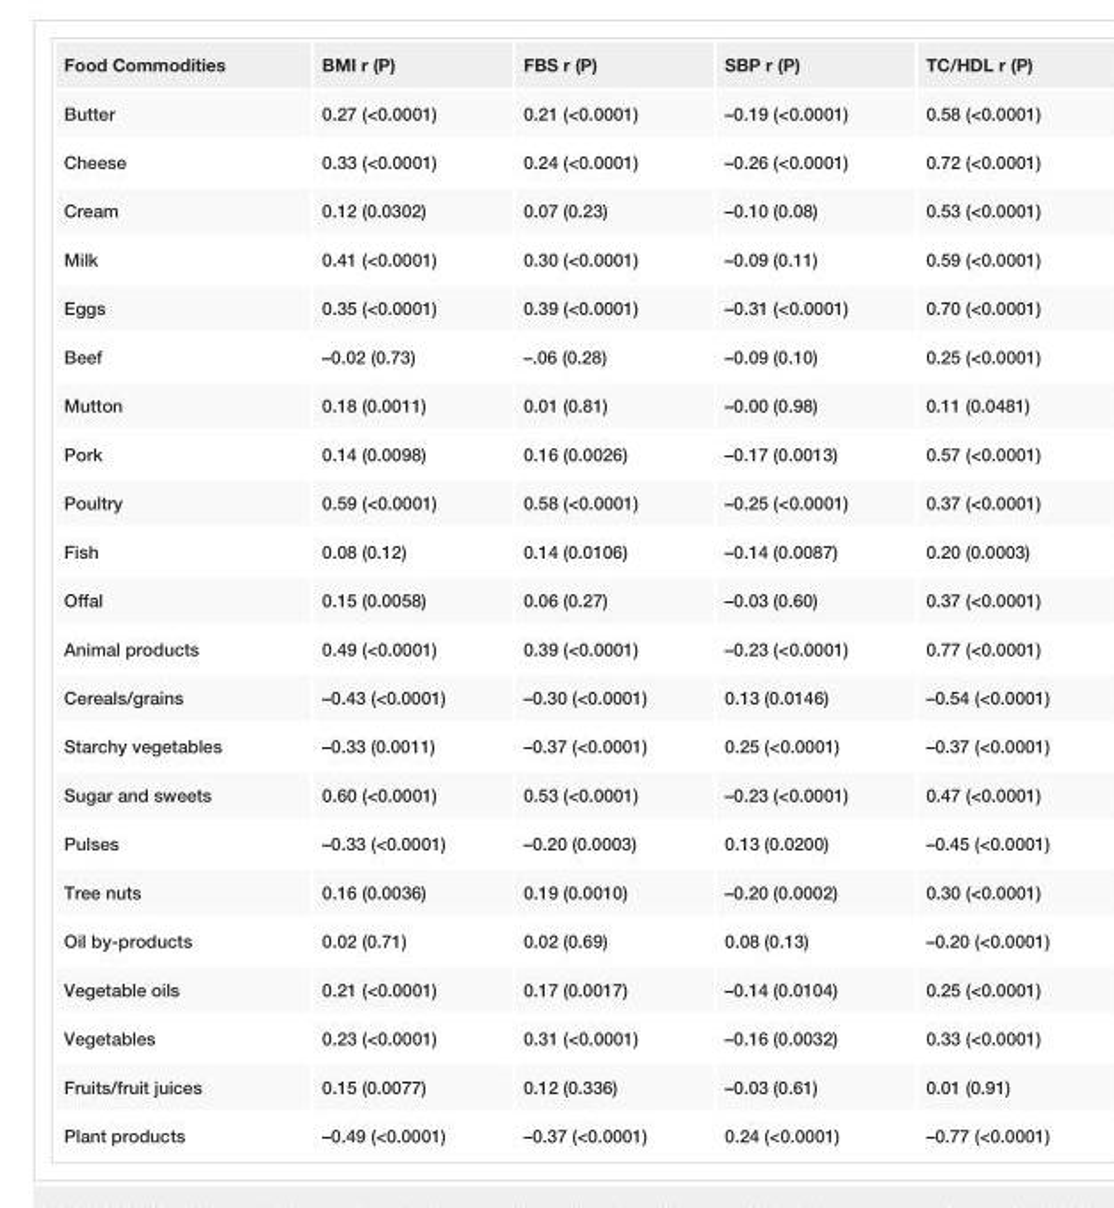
<table><tbody><tr><td>Food Commodities</td><td>BMI r (P)</td><td>FBS r (P)</td><td>SBP r (P)</td><td>TC/HDL r (P)</td></tr><tr><td>Butter</td><td>0.27 (&lt;0.0001)</td><td>0.21 (&lt;0.0001)</td><td>–0.19 (&lt;0.0001)</td><td>0.58 (&lt;0.0001)</td></tr><tr><td>Cheese</td><td>0.33 (&lt;0.0001)</td><td>0.24 (&lt;0.0001)</td><td>–0.26 (&lt;0.0001)</td><td>0.72 (&lt;0.0001)</td></tr><tr><td>Cream</td><td>0.12 (0.0302)</td><td>0.07 (0.23)</td><td>–0.10 (0.08)</td><td>0.53 (&lt;0.0001)</td></tr><tr><td>Milk</td><td>0.41 (&lt;0.0001)</td><td>0.30 (&lt;0.0001)</td><td>–0.09 (0.11)</td><td>0.59 (&lt;0.0001)</td></tr><tr><td>Eggs</td><td>0.35 (&lt;0.0001)</td><td>0.39 (&lt;0.0001)</td><td>–0.31 (&lt;0.0001)</td><td>0.70 (&lt;0.0001)</td></tr><tr><td>Beef</td><td>–0.02 (0.73)</td><td>–.06 (0.28)</td><td>–0.09 (0.10)</td><td>0.25 (&lt;0.0001)</td></tr><tr><td>Mutton</td><td>0.18 (0.0011)</td><td>0.01 (0.81)</td><td>–0.00 (0.98)</td><td>0.11 (0.0481)</td></tr><tr><td>Pork</td><td>0.14 (0.0098)</td><td>0.16 (0.0026)</td><td>–0.17 (0.0013)</td><td>0.57 (&lt;0.0001)</td></tr><tr><td>Poultry</td><td>0.59 (&lt;0.0001)</td><td>0.58 (&lt;0.0001)</td><td>–0.25 (&lt;0.0001)</td><td>0.37 (&lt;0.0001)</td></tr><tr><td>Fish</td><td>0.08 (0.12)</td><td>0.14 (0.0106)</td><td>–0.14 (0.0087)</td><td>0.20 (0.0003)</td></tr><tr><td>Offal</td><td>0.15 (0.0058)</td><td>0.06 (0.27)</td><td>–0.03 (0.60)</td><td>0.37 (&lt;0.0001)</td></tr><tr><td>Animal products</td><td>0.49 (&lt;0.0001)</td><td>0.39 (&lt;0.0001)</td><td>–0.23 (&lt;0.0001)</td><td>0.77 (&lt;0.0001)</td></tr><tr><td>Cereals/grains</td><td>–0.43 (&lt;0.0001)</td><td>–0.30 (&lt;0.0001)</td><td>0.13 (0.0146)</td><td>–0.54 (&lt;0.0001)</td></tr><tr><td>Starchy vegetables</td><td>–0.33 (0.0011)</td><td>–0.37 (&lt;0.0001)</td><td>0.25 (&lt;0.0001)</td><td>–0.37 (&lt;0.0001)</td></tr><tr><td>Sugar and sweets</td><td>0.60 (&lt;0.0001)</td><td>0.53 (&lt;0.0001)</td><td>–0.23 (&lt;0.0001)</td><td>0.47 (&lt;0.0001)</td></tr><tr><td>Pulses</td><td>–0.33 (&lt;0.0001)</td><td>–0.20 (0.0003)</td><td>0.13 (0.0200)</td><td>–0.45 (&lt;0.0001)</td></tr><tr><td>Tree nuts</td><td>0.16 (0.0036)</td><td>0.19 (0.0010)</td><td>–0.20 (0.0002)</td><td>0.30 (&lt;0.0001)</td></tr><tr><td>Oil by-products</td><td>0.02 (0.71)</td><td>0.02 (0.69)</td><td>0.08 (0.13)</td><td>–0.20 (&lt;0.0001)</td></tr><tr><td>Vegetable oils</td><td>0.21 (&lt;0.0001)</td><td>0.17 (0.0017)</td><td>–0.14 (0.0104)</td><td>0.25 (&lt;0.0001)</td></tr><tr><td>Vegetables</td><td>0.23 (&lt;0.0001)</td><td>0.31 (&lt;0.0001)</td><td>–0.16 (0.0032)</td><td>0.33 (&lt;0.0001)</td></tr><tr><td>Fruits/fruit juices</td><td>0.15 (0.0077)</td><td>0.12 (0.336)</td><td>–0.03 (0.61)</td><td>0.01 (0.91)</td></tr><tr><td>Plant products</td><td>–0.49 (&lt;0.0001)</td><td>–0.37 (&lt;0.0001)</td><td>0.24 (&lt;0.0001)</td><td>–0.77 (&lt;0.0001)</td></tr></tbody></table>